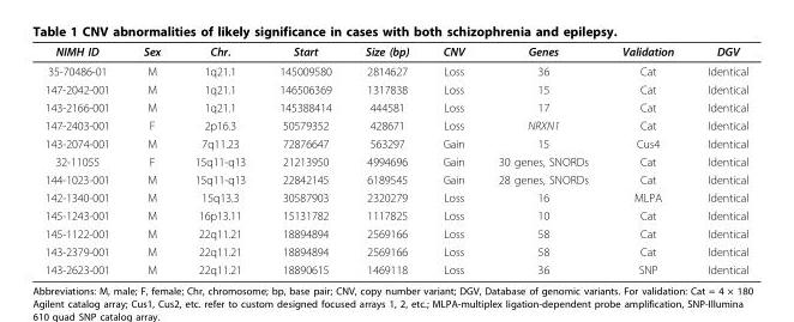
<table><thead><tr><td>NIMH ID</td><td>Sex</td><td>Chr.</td><td>Start</td><td>Size (bp)</td><td>CNV</td><td>Genes</td><td>Validation</td><td>DGV</td></tr></thead><tbody><tr><td>35-70486-01</td><td>M</td><td>1q21.1</td><td>145009580</td><td>2814627</td><td>Loss</td><td>36</td><td>Cat</td><td>Identical</td></tr><tr><td>147-2042-001</td><td>M</td><td>1q21.1</td><td>146506369</td><td>1317838</td><td>Loss</td><td>15</td><td>Cat</td><td>Identical</td></tr><tr><td>143-2166-001</td><td>M</td><td>1q21.1</td><td>145388414</td><td>444581</td><td>Loss</td><td>17</td><td>Cat</td><td>Identical</td></tr><tr><td>147-2403-001</td><td>F</td><td>2p16.3</td><td>50579352</td><td>428671</td><td>Loss</td><td>NRXN1</td><td>Cat</td><td>Identical</td></tr><tr><td>143-2074-001</td><td>M</td><td>7q11.23</td><td>72876647</td><td>563297</td><td>Gain</td><td>15</td><td>Cus4</td><td>Identical</td></tr><tr><td>32-11055</td><td>F</td><td>15q11-q13</td><td>21213950</td><td>4994696</td><td>Gain</td><td>30 genes, SNORDs</td><td>Cat</td><td>Identical</td></tr><tr><td>144-1023-001</td><td>M</td><td>15q11-q13</td><td>22842145</td><td>6189545</td><td>Gain</td><td>28 genes, SNORDs</td><td>Cat</td><td>Identical</td></tr><tr><td>142-1340-001</td><td>M</td><td>15q13.3</td><td>30587903</td><td>2320279</td><td>Loss</td><td>16</td><td>MLPA</td><td>Identical</td></tr><tr><td>145-1243-001</td><td>M</td><td>16p13.11</td><td>15131782</td><td>1117825</td><td>Loss</td><td>10</td><td>Cat</td><td>Identical</td></tr><tr><td>145-1122-001</td><td>M</td><td>22q11.21</td><td>18894894</td><td>2569166</td><td>Loss</td><td>58</td><td>Cat</td><td>Identical</td></tr><tr><td>143-2379-001</td><td>M</td><td>22q11.21</td><td>18894894</td><td>2569166</td><td>Loss</td><td>58</td><td>Cat</td><td>Identical</td></tr><tr><td>143-2623-001</td><td>M</td><td>22q11.21</td><td>18890615</td><td>1469118</td><td>Loss</td><td>36</td><td>SNP</td><td>Identical</td></tr></tbody></table>